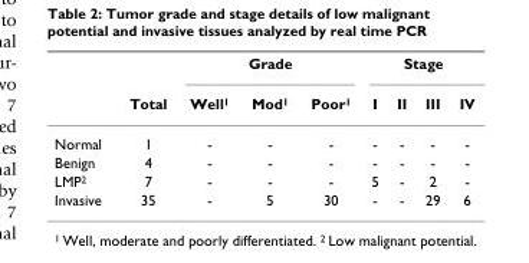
<table><thead><tr><td rowspan="2"></td><td rowspan="2">Total</td><td colspan="3">Grade</td><td colspan="4">Stage</td></tr><tr><td>Well<sup>1</sup></td><td>Mod<sup>1</sup></td><td>Poor<sup>1</sup></td><td>I</td><td>II</td><td>III</td><td>IV</td></tr></thead><tbody><tr><td>Normal</td><td>1</td><td>-</td><td>-</td><td>-</td><td>-</td><td>-</td><td>-</td><td>-</td></tr><tr><td>Benign</td><td>4</td><td>-</td><td>-</td><td>-</td><td>-</td><td>-</td><td>-</td><td>-</td></tr><tr><td>LMP<sup>2</sup></td><td>7</td><td>-</td><td>-</td><td>-</td><td>5</td><td>-</td><td>2</td><td>-</td></tr><tr><td>Invasive</td><td>35</td><td>-</td><td>5</td><td>30</td><td>-</td><td>-</td><td>29</td><td>6</td></tr></tbody></table>